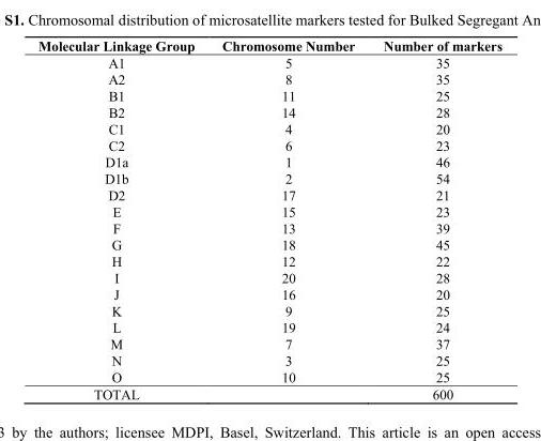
<table><thead><tr><td>Molecular Linkage Group</td><td>Chromosome Number</td><td>Number of markers</td></tr></thead><tbody><tr><td>A1</td><td>5</td><td>35</td></tr><tr><td>A2</td><td>8</td><td>35</td></tr><tr><td>B1</td><td>11</td><td>25</td></tr><tr><td>B2</td><td>14</td><td>28</td></tr><tr><td>C1</td><td>4</td><td>20</td></tr><tr><td>C2</td><td>6</td><td>23</td></tr><tr><td>D1a</td><td>1</td><td>46</td></tr><tr><td>D1b</td><td>2</td><td>54</td></tr><tr><td>D2</td><td>17</td><td>21</td></tr><tr><td>E</td><td>15</td><td>23</td></tr><tr><td>F</td><td>13</td><td>39</td></tr><tr><td>G</td><td>18</td><td>45</td></tr><tr><td>H</td><td>12</td><td>22</td></tr><tr><td>I</td><td>20</td><td>28</td></tr><tr><td>J</td><td>16</td><td>20</td></tr><tr><td>K</td><td>9</td><td>25</td></tr><tr><td>L</td><td>19</td><td>24</td></tr><tr><td>M</td><td>7</td><td>37</td></tr><tr><td>N</td><td>3</td><td>25</td></tr><tr><td>O</td><td>10</td><td>25</td></tr><tr><td>TOTAL</td><td></td><td>600</td></tr></tbody></table>